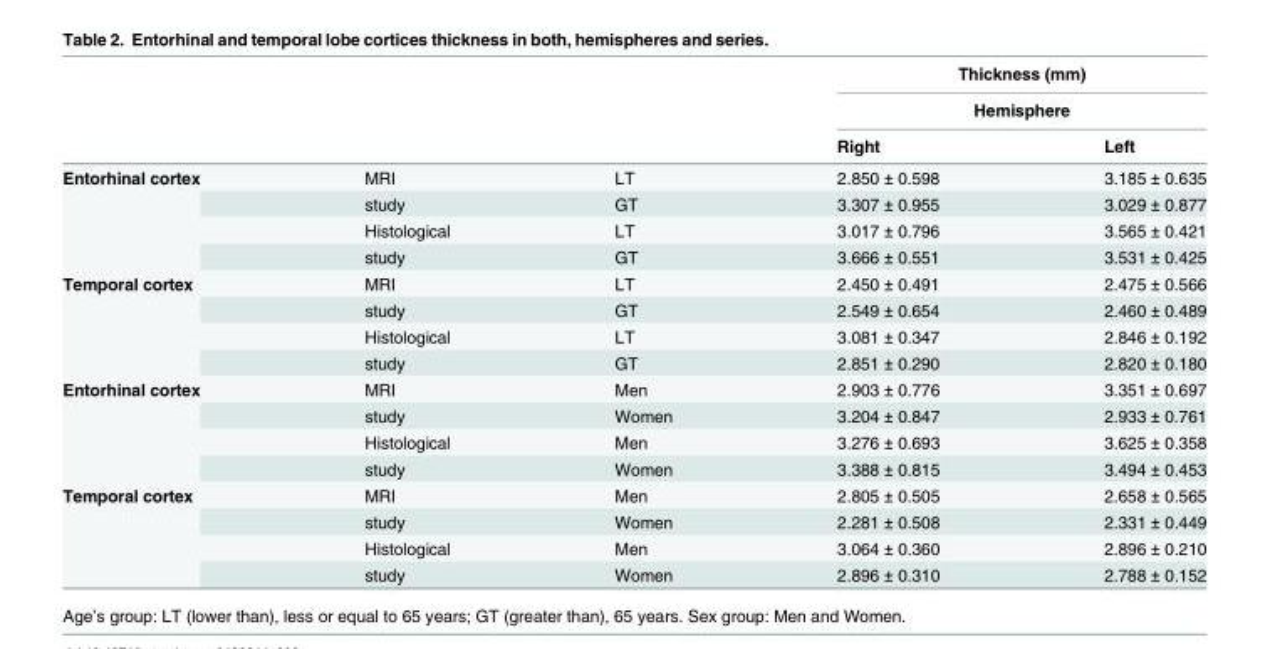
<table><thead><tr><td rowspan="3"></td><td rowspan="3"></td><td rowspan="3"></td><td rowspan="2" colspan="2">Thickness (mm) Hemisphere</td></tr><tr></tr><tr><td>Right</td><td>Left</td></tr></thead><tbody><tr><td rowspan="4">Entorhinal cortex</td><td>MRI</td><td>LT</td><td>2.850 ± 0.598</td><td>3.185 ± 0.635</td></tr><tr><td>study</td><td>GT</td><td>3.307 ± 0.955</td><td>3.029 ± 0.877</td></tr><tr><td>Histological</td><td>LT</td><td>3.017 ± 0.796</td><td>3.565 ± 0.421</td></tr><tr><td>study</td><td>GT</td><td>3.666 ± 0.551</td><td>3.531 ± 0.425</td></tr><tr><td rowspan="4">Temporal cortex</td><td>MRI</td><td>LT</td><td>2.450 ± 0.491</td><td>2.475 ± 0.566</td></tr><tr><td>study</td><td>GT</td><td>2.549 ± 0.654</td><td>2.460 ± 0.489</td></tr><tr><td>Histological</td><td>LT</td><td>3.081 ± 0.347</td><td>2.846 ± 0.192</td></tr><tr><td>study</td><td>GT</td><td>2.851 ± 0.290</td><td>2.820 ± 0.180</td></tr><tr><td rowspan="4">Entorhinal cortex</td><td>MRI</td><td>Men</td><td>2.903 ± 0.776</td><td>3.351 ± 0.697</td></tr><tr><td>study</td><td>Women</td><td>3.204 ± 0.847</td><td>2.933 ± 0.761</td></tr><tr><td>Histological</td><td>Men</td><td>3.276 ± 0.693</td><td>3.625 ± 0.358</td></tr><tr><td>study</td><td>Women</td><td>3.388 ± 0.815</td><td>3.494 ± 0.453</td></tr><tr><td rowspan="4">Temporal cortex</td><td>MRI</td><td>Men</td><td>2.805 ± 0.505</td><td>2.658 ± 0.565</td></tr><tr><td>study</td><td>Women</td><td>2.281 ± 0.508</td><td>2.331 ± 0.449</td></tr><tr><td>Histological</td><td>Men</td><td>3.064 ± 0.360</td><td>2.896 ± 0.210</td></tr><tr><td>study</td><td>Women</td><td>2.896 ± 0.310</td><td>2.788 ± 0.152</td></tr></tbody></table>